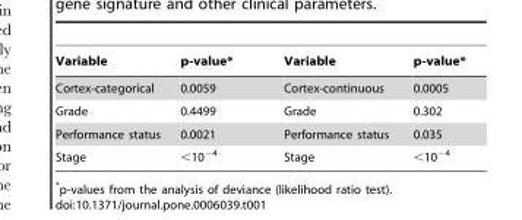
<table><thead><tr><td>Variable</td><td>p-value*</td><td>Variable</td><td>p-value*</td></tr></thead><tbody><tr><td>Cortex-categorical</td><td>0.0059</td><td>Cortex-continuous</td><td>0.0005</td></tr><tr><td>Grade</td><td>0.4499</td><td>Grade</td><td>0.302</td></tr><tr><td>Performance status</td><td>0.0021</td><td>Performance status</td><td>0.035</td></tr><tr><td>Stage</td><td>&lt;10<sup>−4</sup></td><td>Stage</td><td>&lt;10<sup>−4</sup></td></tr></tbody></table>